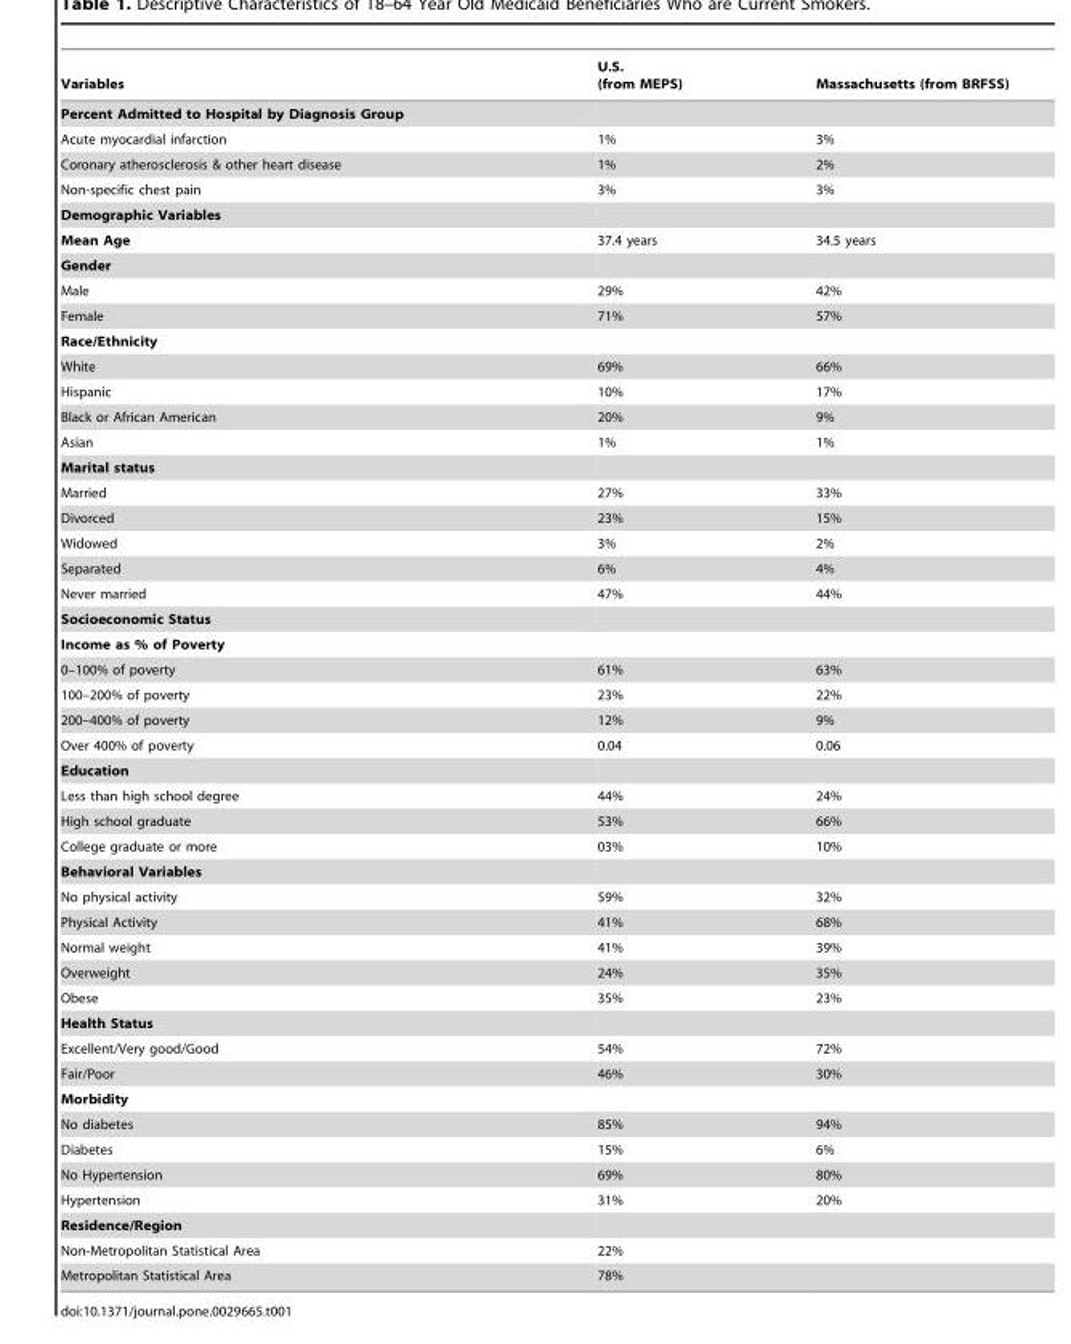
<table><thead><tr><td>Variables</td><td>U.S. (from MEPS)</td><td>Massachusetts (from BRFSS)</td></tr></thead><tbody><tr><td colspan="3">Percent Admitted to Hospital by Diagnosis Group</td></tr><tr><td>Acute myocardial infarction</td><td>1%</td><td>3%</td></tr><tr><td>Coronary atherosclerosis &amp; other heart disease</td><td>1%</td><td>2%</td></tr><tr><td>Non-specific chest pain</td><td>3%</td><td>3%</td></tr><tr><td colspan="3">Demographic Variables</td></tr><tr><td>Mean Age</td><td>37.4 years</td><td>34.5 years</td></tr><tr><td colspan="3">Gender</td></tr><tr><td>Male</td><td>29%</td><td>42%</td></tr><tr><td>Female</td><td>71%</td><td>57%</td></tr><tr><td colspan="3">Race/Ethnicity</td></tr><tr><td>White</td><td>69%</td><td>66%</td></tr><tr><td>Hispanic</td><td>10%</td><td>17%</td></tr><tr><td>Black or African American</td><td>20%</td><td>9%</td></tr><tr><td>Asian</td><td>1%</td><td>1%</td></tr><tr><td colspan="3">Marital status</td></tr><tr><td>Married</td><td>27%</td><td>33%</td></tr><tr><td>Divorced</td><td>23%</td><td>15%</td></tr><tr><td>Widowed</td><td>3%</td><td>2%</td></tr><tr><td>Separated</td><td>6%</td><td>4%</td></tr><tr><td>Never married</td><td>47%</td><td>44%</td></tr><tr><td colspan="3">Socioeconomic Status</td></tr><tr><td colspan="3">Income as % of Poverty</td></tr><tr><td>0–100% of poverty</td><td>61%</td><td>63%</td></tr><tr><td>100–200% of poverty</td><td>23%</td><td>22%</td></tr><tr><td>200–400% of poverty</td><td>12%</td><td>9%</td></tr><tr><td>Over 400% of poverty</td><td>0.04</td><td>0.06</td></tr><tr><td colspan="3">Education</td></tr><tr><td>Less than high school degree</td><td>44%</td><td>24%</td></tr><tr><td>High school graduate</td><td>53%</td><td>66%</td></tr><tr><td>College graduate or more</td><td>03%</td><td>10%</td></tr><tr><td colspan="3">Behavioral Variables</td></tr><tr><td>No physical activity</td><td>59%</td><td>32%</td></tr><tr><td>Physical Activity</td><td>41%</td><td>68%</td></tr><tr><td>Normal weight</td><td>41%</td><td>39%</td></tr><tr><td>Overweight</td><td>24%</td><td>35%</td></tr><tr><td>Obese</td><td>35%</td><td>23%</td></tr><tr><td colspan="3">Health Status</td></tr><tr><td>Excellent/Very good/Good</td><td>54%</td><td>72%</td></tr><tr><td>Fair/Poor</td><td>46%</td><td>30%</td></tr><tr><td colspan="3">Morbidity</td></tr><tr><td>No diabetes</td><td>85%</td><td>94%</td></tr><tr><td>Diabetes</td><td>15%</td><td>6%</td></tr><tr><td>No Hypertension</td><td>69%</td><td>80%</td></tr><tr><td>Hypertension</td><td>31%</td><td>20%</td></tr><tr><td colspan="3">Residence/Region</td></tr><tr><td>Non-Metropolitan Statistical Area</td><td>22%</td><td></td></tr><tr><td>Metropolitan Statistical Area</td><td>78%</td><td></td></tr></tbody></table>